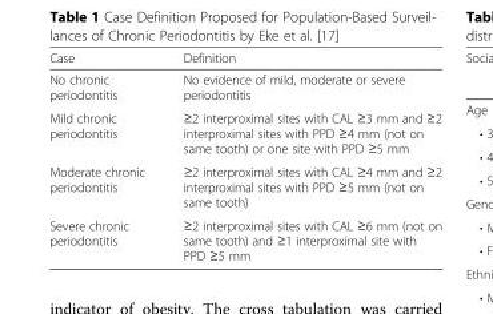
<table><thead><tr><td>Case</td><td>Definition</td></tr></thead><tbody><tr><td>No chronic periodontitis</td><td>No evidence of mild, moderate or severe periodontitis</td></tr><tr><td>Mild chronic periodontitis</td><td>≥2 interproximal sites with CAL ≥3 mm and ≥2 interproximal sites with PPD ≥4 mm (not on same tooth) or one site with PPD ≥5 mm</td></tr><tr><td>Moderate chronic periodontitis</td><td>≥2 interproximal sites with CAL ≥4 mm and ≥2 interproximal sites with PPD ≥5 mm (not on same tooth)</td></tr><tr><td>Severe chronic periodontitis</td><td>≥2 interproximal sites with CAL ≥6 mm (not on same tooth) and ≥1 interproximal site with PPD ≥5 mm</td></tr></tbody></table>